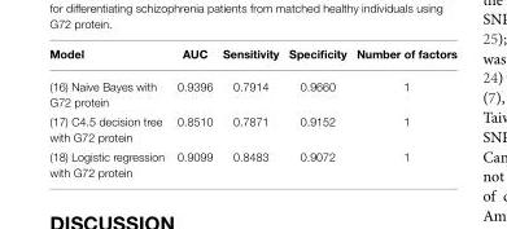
<table><thead><tr><td>Model</td><td>AUC</td><td>Sensitivity</td><td>Specificity</td><td>Number of factors</td></tr></thead><tbody><tr><td>(16) Naive Bayes with G72 protein</td><td>0.9396</td><td>0.7914</td><td>0.9660</td><td>1</td></tr><tr><td>(17) C4.5 decision tree with G72 protein</td><td>0.8510</td><td>0.7871</td><td>0.9152</td><td>1</td></tr><tr><td>(18) Logistic regression with G72 protein</td><td>0.9099</td><td>0.8483</td><td>0.9072</td><td>1</td></tr></tbody></table>